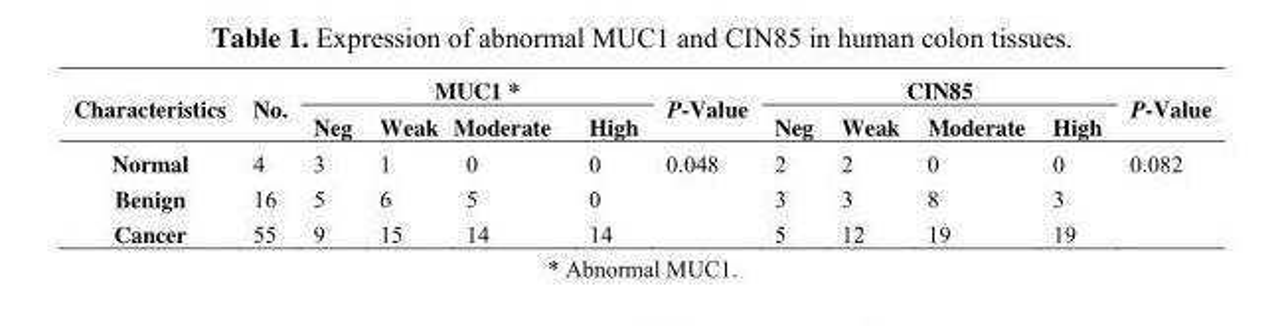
<table><thead><tr><td rowspan="2">Characteristics</td><td rowspan="2">No.</td><td colspan="4">MUC1 *</td><td rowspan="2">P-Value</td><td colspan="4">CIN85</td><td rowspan="2">P-Value</td></tr><tr><td>Neg</td><td>Weak</td><td>Moderate</td><td>High</td><td>Neg</td><td>Weak</td><td>Moderate</td><td>High</td></tr></thead><tbody><tr><td>Normal</td><td>4</td><td>3</td><td>1</td><td>0</td><td>0</td><td>0.048</td><td>2</td><td>2</td><td>0</td><td>0</td><td>0.082</td></tr><tr><td>Benign</td><td>16</td><td>5</td><td>6</td><td>5</td><td>0</td><td></td><td>3</td><td>3</td><td>8</td><td>3</td><td></td></tr><tr><td>Cancer</td><td>55</td><td>9</td><td>15</td><td>14</td><td>14</td><td></td><td>5</td><td>12</td><td>19</td><td>19</td><td></td></tr></tbody></table>